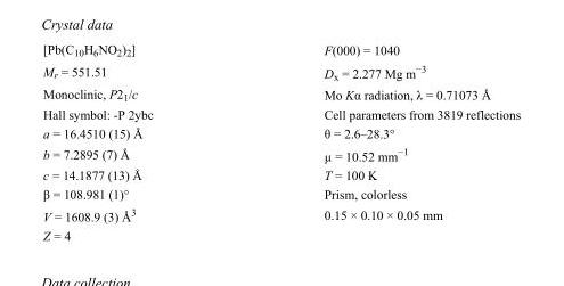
<table><tbody><tr><td>[Pb(C<sub>10</sub>H<sub>6</sub>NO<sub>2</sub>)<sub>2</sub>]</td><td>F(000) = 1040</td></tr><tr><td>M<sub>r</sub> = 551.51</td><td>D<sub>x</sub> = 2.277 Mg m<sup>−3</sup></td></tr><tr><td>Monoclinic, P2<sub>1</sub>/c</td><td>Mo Kα radiation, λ = 0.71073 Å</td></tr><tr><td>Hall symbol: -P 2ybc</td><td>Cell parameters from 3819 reflections</td></tr><tr><td>a = 16.4510 (15) Å</td><td>θ = 2.6–28.3°</td></tr><tr><td>b = 7.2895 (7) Å</td><td>µ = 10.52 mm<sup>−1</sup></td></tr><tr><td>c = 14.1877 (13) Å</td><td>T = 100 K</td></tr><tr><td>β = 108.981 (1)°</td><td>Prism, colorless</td></tr><tr><td>V = 1608.9 (3) Å<sup>3</sup></td><td>0.15 × 0.10 × 0.05 mm</td></tr><tr><td>Z = 4</td><td></td></tr></tbody></table>